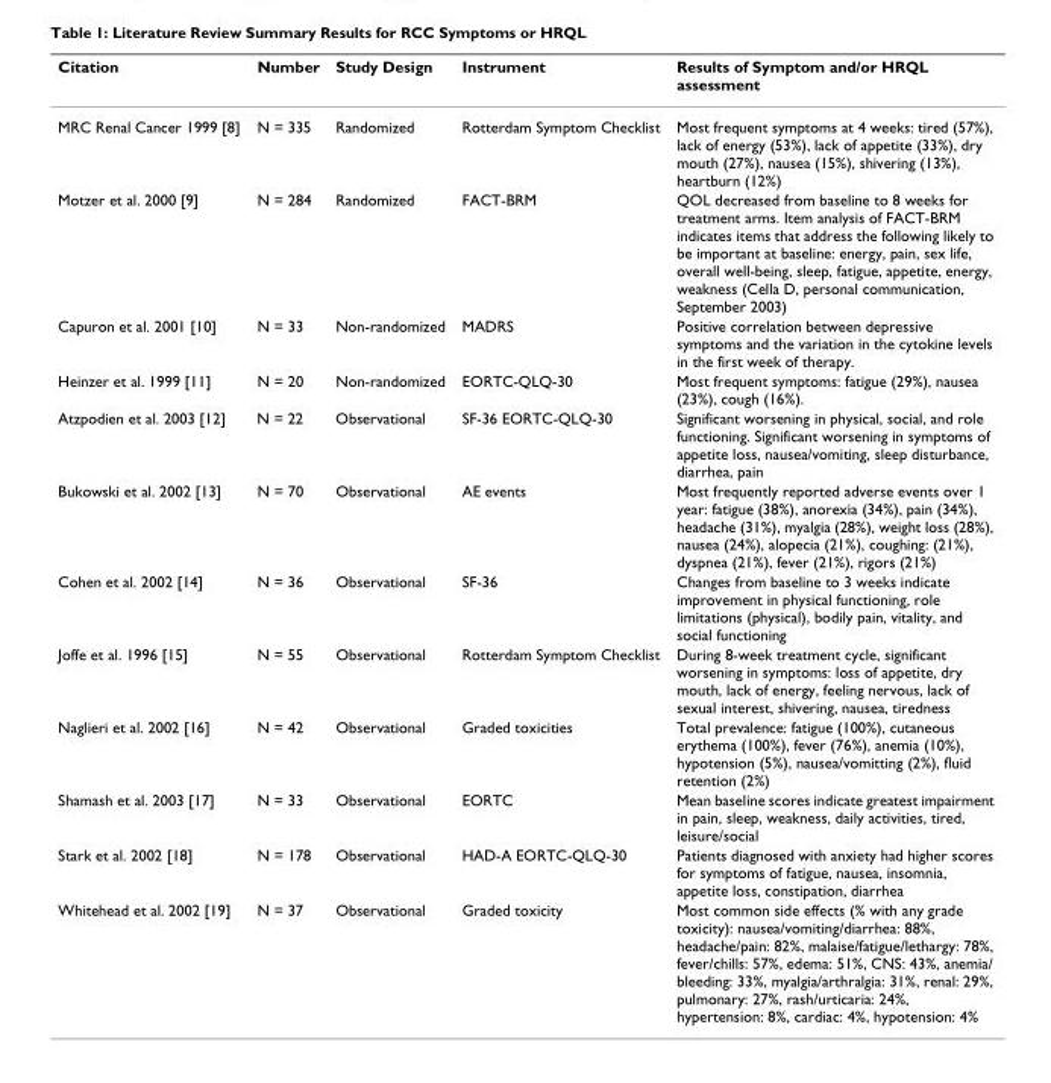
<table><thead><tr><td>Citation</td><td>Number</td><td>Study Design</td><td>Instrument</td><td>Results of Symptom and/or HRQL assessment</td></tr></thead><tbody><tr><td>MRC Renal Cancer 1999 [8]</td><td>N = 335</td><td>Randomized</td><td>Rotterdam Symptom Checklist</td><td>Most frequent symptoms at 4 weeks: tired (57%), lack of energy (53%), lack of appetite (33%), dry mouth (27%), nausea (15%), shivering (13%), heartburn (12%)</td></tr><tr><td>Motzer et al. 2000 [9]</td><td>N = 284</td><td>Randomized</td><td>FACT-BRM</td><td>QOL decreased from baseline to 8 weeks for treatment arms. Item analysis of FACT-BRM indicates items that address the following likely to be important at baseline: energy, pain, sex life, overall well-being, sleep, fatigue, appetite, energy, weakness (Cella D, personal communication, September 2003)</td></tr><tr><td>Capuron et al. 2001 [10]</td><td>N = 33</td><td>Non-randomized</td><td>MADRS</td><td>Positive correlation between depressive symptoms and the variation in the cytokine levels in the first week of therapy.</td></tr><tr><td>Heinzer et al. 1999 [11]</td><td>N = 20</td><td>Non-randomized</td><td>EORTC-QLQ-30</td><td>Most frequent symptoms: fatigue (29%), nausea (23%), cough (16%).</td></tr><tr><td>Atzpodien et al. 2003 [12]</td><td>N = 22</td><td>Observational</td><td>SF-36 EORTC-QLQ-30</td><td>Significant worsening in physical, social, and role functioning. Significant worsening in symptoms of appetite loss, nausea/vomiting, sleep disturbance, diarrhea, pain</td></tr><tr><td>Bukowski et al. 2002 [13]</td><td>N = 70</td><td>Observational</td><td>AE events</td><td>Most frequently reported adverse events over 1 year: fatigue (38%), anorexia (34%), pain (34%), headache (31%), myalgia (28%), weight loss (28%), nausea (24%), alopecia (21%), coughing: (21%), dyspnea (21%), fever (21%), rigors (21%)</td></tr><tr><td>Cohen et al. 2002 [14]</td><td>N = 36</td><td>Observational</td><td>SF-36</td><td>Changes from baseline to 3 weeks indicate improvement in physical functioning, role limitations (physical), bodily pain, vitality, and social functioning</td></tr><tr><td>Joffe et al. 1996 [15]</td><td>N = 55</td><td>Observational</td><td>Rotterdam Symptom Checklist</td><td>During 8-week treatment cycle, significant worsening in symptoms: loss of appetite, dry mouth, lack of energy, feeling nervous, lack of sexual interest, shivering, nausea, tiredness</td></tr><tr><td>Naglieri et al. 2002 [16]</td><td>N = 42</td><td>Observational</td><td>Graded toxicities</td><td>Total prevalence: fatigue (100%), cutaneous erythema (100%), fever (76%), anemia (10%), hypotension (5%), nausea/vomitting (2%), fluid retention (2%)</td></tr><tr><td>Shamash et al. 2003 [17]</td><td>N = 33</td><td>Observational</td><td>EORTC</td><td>Mean baseline scores indicate greatest impairment in pain, sleep, weakness, daily activities, tired, leisure/social</td></tr><tr><td>Stark et al. 2002 [18]</td><td>N = 178</td><td>Observational</td><td>HAD-A EORTC-QLQ-30</td><td>Patients diagnosed with anxiety had higher scores for symptoms of fatigue, nausea, insomnia, appetite loss, constipation, diarrhea</td></tr><tr><td>Whitehead et al. 2002 [19]</td><td>N = 37</td><td>Observational</td><td>Graded toxicity</td><td>Most common side effects (% with any grade toxicity): nausea/vomiting/diarrhea: 88%, headache/pain: 82%, malaise/fatigue/lethargy: 78%, fever/chills: 57%, edema: 51%, CNS: 43%, anemia/ bleeding: 33%, myalgia/arthralgia: 31%, renal: 29%, pulmonary: 27%, rash/urticaria: 24%, hypertension: 8%, cardiac: 4%, hypotension: 4%</td></tr></tbody></table>